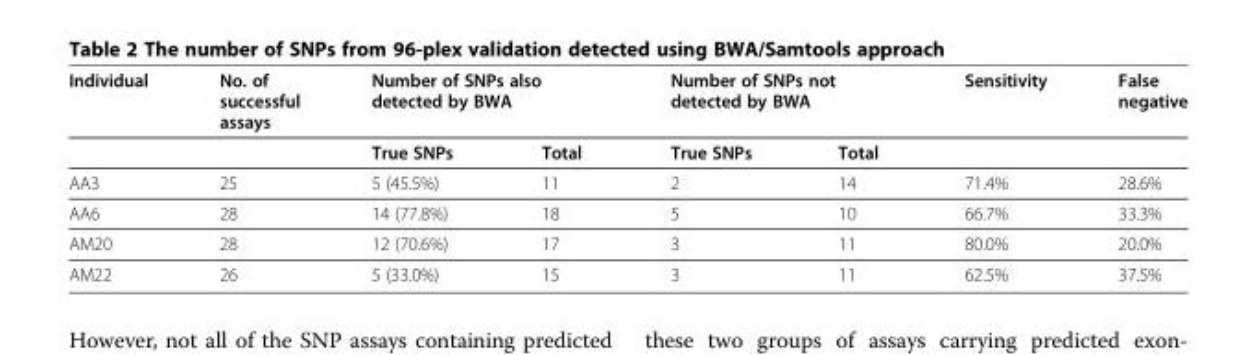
<table><thead><tr><td rowspan="2">Individual</td><td rowspan="2">No. of successful assays</td><td colspan="2">Number of SNPs also detected by BWA</td><td colspan="2">Number of SNPs not detected by BWA</td><td rowspan="2">Sensitivity</td><td rowspan="2">False negative</td></tr><tr><td>True SNPs</td><td>Total</td><td>True SNPs</td><td>Total</td></tr></thead><tbody><tr><td>AA3</td><td>25</td><td>5 (45.5%)</td><td>11</td><td>2</td><td>14</td><td>71.4%</td><td>28.6%</td></tr><tr><td>AA6</td><td>28</td><td>14 (77.8%)</td><td>18</td><td>5</td><td>10</td><td>66.7%</td><td>33.3%</td></tr><tr><td>AM20</td><td>28</td><td>12 (70.6%)</td><td>17</td><td>3</td><td>11</td><td>80.0%</td><td>20.0%</td></tr><tr><td>AM22</td><td>26</td><td>5 (33.0%)</td><td>15</td><td>3</td><td>11</td><td>62.5%</td><td>37.5%</td></tr></tbody></table>